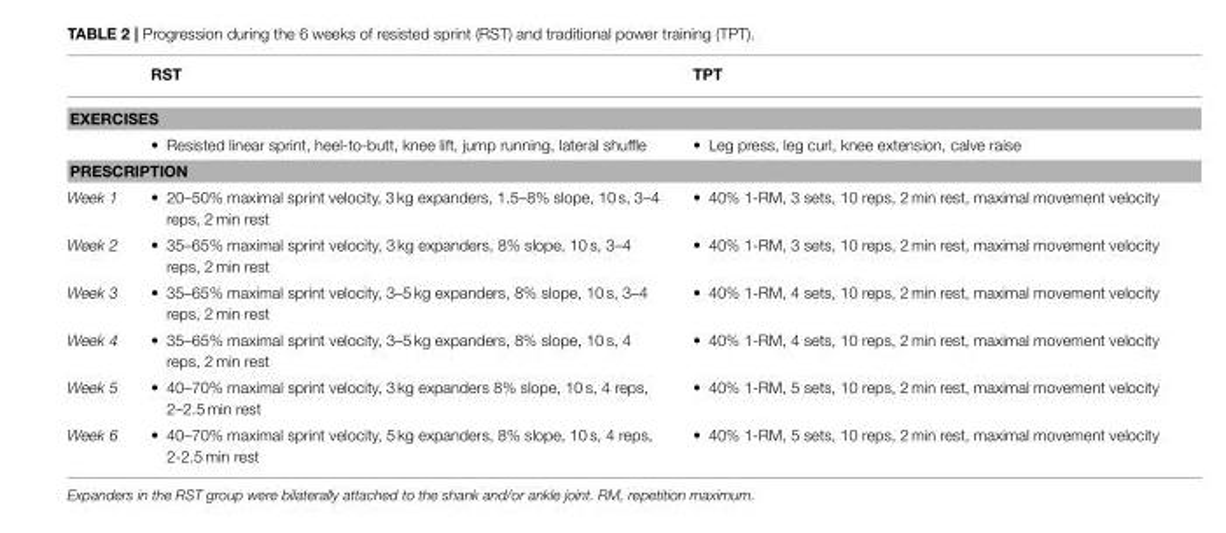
<table><thead><tr><td></td><td>RST</td><td>TPT</td></tr></thead><tbody><tr><td colspan="3">EXERCISES</td></tr><tr><td></td><td>• Resisted linear sprint, heel-to-butt, knee lift, jump running, lateral shuffle</td><td>• Leg press, leg curl, knee extension, calve raise</td></tr><tr><td colspan="3">PRESCRIPTION</td></tr><tr><td>Week 1</td><td>• 20–50% maximal sprint velocity, 3 kg expanders, 1.5–8% slope, 10 s, 3–4 reps, 2 min rest</td><td>• 40% 1-RM, 3 sets, 10 reps, 2 min rest, maximal movement velocity</td></tr><tr><td>Week 2</td><td>• 35–65% maximal sprint velocity, 3 kg expanders, 8% slope, 10 s, 3–4 reps, 2 min rest</td><td>• 40% 1-RM, 3 sets, 10 reps, 2 min rest, maximal movement velocity</td></tr><tr><td>Week 3</td><td>• 35–65% maximal sprint velocity, 3–5 kg expanders, 8% slope, 10 s, 3–4 reps, 2 min rest</td><td>• 40% 1-RM, 4 sets, 10 reps, 2 min rest, maximal movement velocity</td></tr><tr><td>Week 4</td><td>• 35–65% maximal sprint velocity, 3–5 kg expanders, 8% slope, 10 s, 4 reps, 2 min rest</td><td>• 40% 1-RM, 4 sets, 10 reps, 2 min rest, maximal movement velocity</td></tr><tr><td>Week 5</td><td>• 40–70% maximal sprint velocity, 3 kg expanders 8% slope, 10 s, 4 reps, 2–2.5 min rest</td><td>• 40% 1-RM, 5 sets, 10 reps, 2 min rest, maximal movement velocity</td></tr><tr><td>Week 6</td><td>• 40–70% maximal sprint velocity, 5 kg expanders, 8% slope, 10 s, 4 reps, 2-2.5 min rest</td><td>• 40% 1-RM, 5 sets, 10 reps, 2 min rest, maximal movement velocity</td></tr></tbody></table>